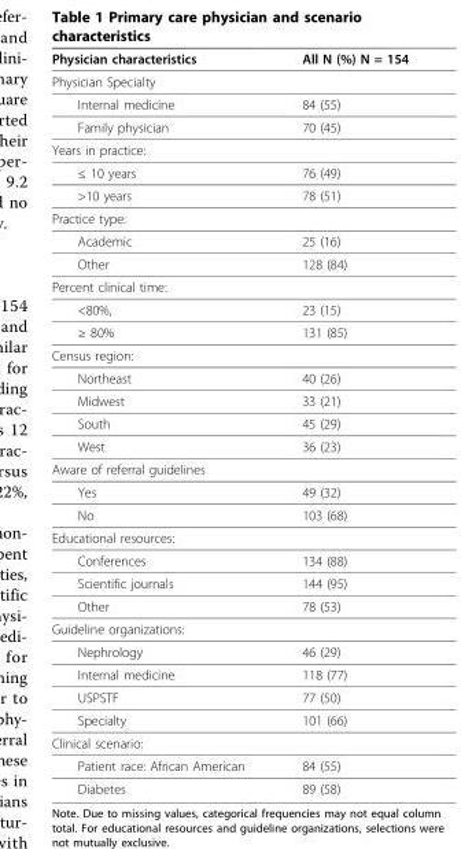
<table><thead><tr><td>Physician characteristics</td><td>All N (%) N = 154</td></tr></thead><tbody><tr><td colspan="2">Physician Specialty</td></tr><tr><td>Internal medicine</td><td>84 (55)</td></tr><tr><td>Family physician</td><td>70 (45)</td></tr><tr><td colspan="2">Years in practice:</td></tr><tr><td>≤ 10 years</td><td>76 (49)</td></tr><tr><td>&gt;10 years</td><td>78 (51)</td></tr><tr><td colspan="2">Practice type:</td></tr><tr><td>Academic</td><td>25 (16)</td></tr><tr><td>Other</td><td>128 (84)</td></tr><tr><td colspan="2">Percent clinical time:</td></tr><tr><td>&lt;80%,</td><td>23 (15)</td></tr><tr><td>≥ 80%</td><td>131 (85)</td></tr><tr><td colspan="2">Census region:</td></tr><tr><td>Northeast</td><td>40 (26)</td></tr><tr><td>Midwest</td><td>33 (21)</td></tr><tr><td>South</td><td>45 (29)</td></tr><tr><td>West</td><td>36 (23)</td></tr><tr><td colspan="2">Aware of referral guidelines</td></tr><tr><td>Yes</td><td>49 (32)</td></tr><tr><td>No</td><td>103 (68)</td></tr><tr><td colspan="2">Educational resources:</td></tr><tr><td>Conferences</td><td>134 (88)</td></tr><tr><td>Scientific journals</td><td>144 (95)</td></tr><tr><td>Other</td><td>78 (53)</td></tr><tr><td colspan="2">Guideline organizations:</td></tr><tr><td>Nephrology</td><td>46 (29)</td></tr><tr><td>Internal medicine</td><td>118 (77)</td></tr><tr><td>USPSTF</td><td>77 (50)</td></tr><tr><td>Specialty</td><td>101 (66)</td></tr><tr><td colspan="2">Clinical scenario:</td></tr><tr><td>Patient race: African American</td><td>84 (55)</td></tr><tr><td>Diabetes</td><td>89 (58)</td></tr></tbody></table>